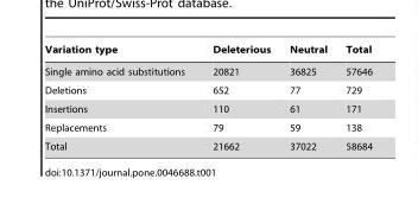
<table><thead><tr><td>Variation type</td><td>Deleterious</td><td>Neutral</td><td>Total</td></tr></thead><tbody><tr><td>Single amino acid substitutions</td><td>20821</td><td>36825</td><td>57646</td></tr><tr><td>Deletions</td><td>652</td><td>77</td><td>729</td></tr><tr><td>Insertions</td><td>110</td><td>61</td><td>171</td></tr><tr><td>Replacements</td><td>79</td><td>59</td><td>138</td></tr><tr><td>Total</td><td>21662</td><td>37022</td><td>58684</td></tr></tbody></table>